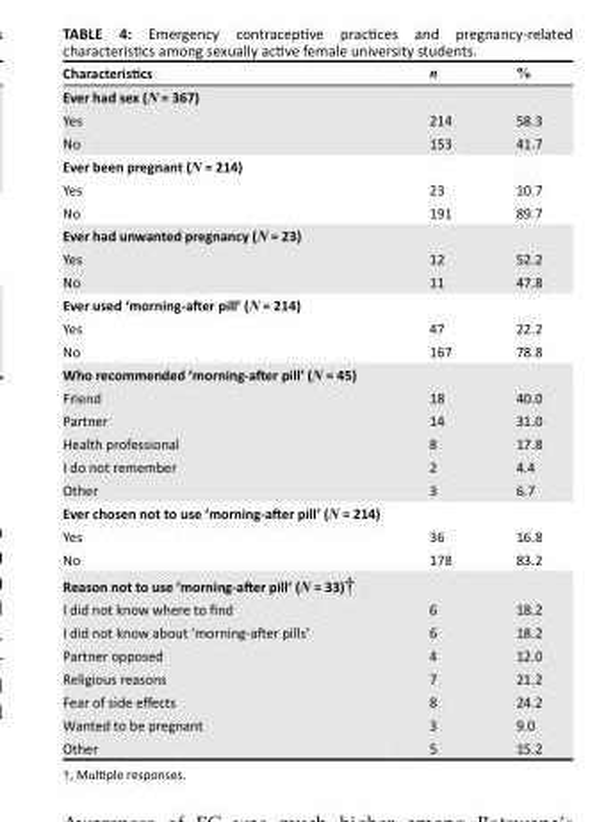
<table><thead><tr><td>Characteristics</td><td>n</td><td>%</td></tr></thead><tbody><tr><td colspan="3">Ever had sex (N = 367)</td></tr><tr><td>Yes</td><td>214</td><td>58.3</td></tr><tr><td>No</td><td>153</td><td>41.7</td></tr><tr><td colspan="3">Ever been pregnant (N = 214)</td></tr><tr><td>Yes</td><td>23</td><td>10.7</td></tr><tr><td>No</td><td>191</td><td>89.7</td></tr><tr><td colspan="3">Ever had unwanted pregnancy (N = 23)</td></tr><tr><td>Yes</td><td>12</td><td>52.2</td></tr><tr><td>No</td><td>11</td><td>47.8</td></tr><tr><td colspan="3">Ever used ‘morning-after pill’ (N = 214)</td></tr><tr><td>Yes</td><td>47</td><td>22.2</td></tr><tr><td>No</td><td>167</td><td>78.8</td></tr><tr><td colspan="3">Who recommended ‘morning-after pill’ (N = 45)</td></tr><tr><td>Friend</td><td>18</td><td>40.0</td></tr><tr><td>Partner</td><td>14</td><td>31.0</td></tr><tr><td>Health professional</td><td>8</td><td>17.8</td></tr><tr><td>I do not remember</td><td>2</td><td>4.4</td></tr><tr><td>Other</td><td>3</td><td>6.7</td></tr><tr><td colspan="3">Ever chosen not to use ‘morning-after pill’ (N = 214)</td></tr><tr><td>Yes</td><td>36</td><td>16.8</td></tr><tr><td>No</td><td>178</td><td>83.2</td></tr><tr><td colspan="3">Reason not to use ‘morning-after pill’ (N = 33)†</td></tr><tr><td>I did not know where to find</td><td>6</td><td>18.2</td></tr><tr><td>I did not know about ‘morning-after pills’</td><td>6</td><td>18.2</td></tr><tr><td>Partner opposed</td><td>4</td><td>12.0</td></tr><tr><td>Religious reasons</td><td>7</td><td>21.2</td></tr><tr><td>Fear of side effects</td><td>8</td><td>24.2</td></tr><tr><td>Wanted to be pregnant</td><td>3</td><td>9.0</td></tr><tr><td>Other</td><td>5</td><td>15.2</td></tr></tbody></table>